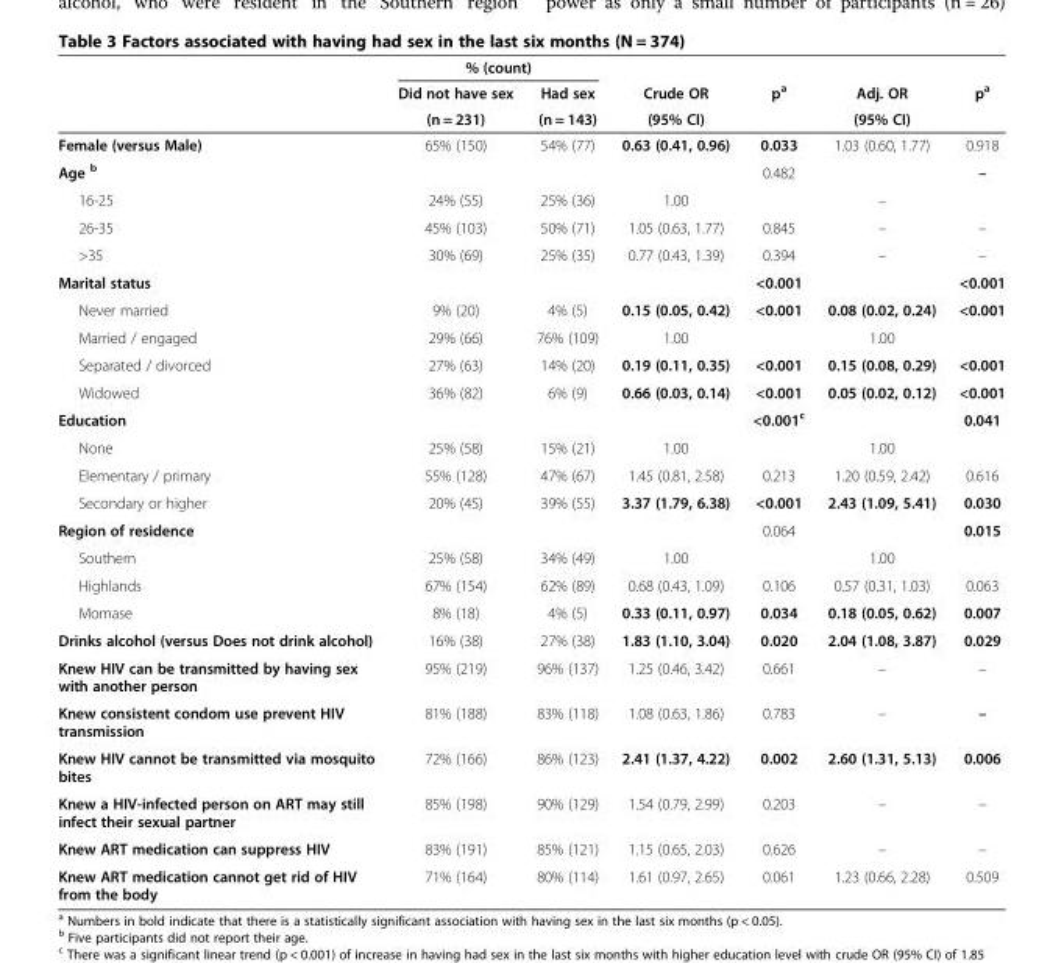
<table><thead><tr><td rowspan="3"></td><td colspan="2">% (count)</td><td rowspan="3">Crude OR (95% CI)</td><td rowspan="3">p<sup>a</sup></td><td rowspan="3">Adj. OR (95% CI)</td><td rowspan="3">p<sup>a</sup></td></tr><tr><td rowspan="2">Did not have sex (n = 231)</td><td rowspan="2">Had sex (n = 143)</td></tr><tr></tr></thead><tbody><tr><td>Female (versus Male)</td><td>65% (150)</td><td>54% (77)</td><td>0.63 (0.41, 0.96)</td><td>0.033</td><td>1.03 (0.60, 1.77)</td><td>0.918</td></tr><tr><td>Age <sup>b</sup></td><td></td><td></td><td></td><td>0.482</td><td></td><td>–</td></tr><tr><td>16-25</td><td>24% (55)</td><td>25% (36)</td><td>1.00</td><td></td><td>–</td><td></td></tr><tr><td>26-35</td><td>45% (103)</td><td>50% (71)</td><td>1.05 (0.63, 1.77)</td><td>0.845</td><td>–</td><td>–</td></tr><tr><td>&gt;35</td><td>30% (69)</td><td>25% (35)</td><td>0.77 (0.43, 1.39)</td><td>0.394</td><td>–</td><td>–</td></tr><tr><td>Marital status</td><td></td><td></td><td></td><td>&lt;0.001</td><td></td><td>&lt;0.001</td></tr><tr><td>Never married</td><td>9% (20)</td><td>4% (5)</td><td>0.15 (0.05, 0.42)</td><td>&lt;0.001</td><td>0.08 (0.02, 0.24)</td><td>&lt;0.001</td></tr><tr><td>Married / engaged</td><td>29% (66)</td><td>76% (109)</td><td>1.00</td><td></td><td>1.00</td><td></td></tr><tr><td>Separated / divorced</td><td>27% (63)</td><td>14% (20)</td><td>0.19 (0.11, 0.35)</td><td>&lt;0.001</td><td>0.15 (0.08, 0.29)</td><td>&lt;0.001</td></tr><tr><td>Widowed</td><td>36% (82)</td><td>6% (9)</td><td>0.66 (0.03, 0.14)</td><td>&lt;0.001</td><td>0.05 (0.02, 0.12)</td><td>&lt;0.001</td></tr><tr><td>Education</td><td></td><td></td><td></td><td>&lt;0.001<sup>c</sup></td><td></td><td>0.041</td></tr><tr><td>None</td><td>25% (58)</td><td>15% (21)</td><td>1.00</td><td></td><td>1.00</td><td></td></tr><tr><td>Elementary / primary</td><td>55% (128)</td><td>47% (67)</td><td>1.45 (0.81, 2.58)</td><td>0.213</td><td>1.20 (0.59, 2.42)</td><td>0.616</td></tr><tr><td>Secondary or higher</td><td>20% (45)</td><td>39% (55)</td><td>3.37 (1.79, 6.38)</td><td>&lt;0.001</td><td>2.43 (1.09, 5.41)</td><td>0.030</td></tr><tr><td>Region of residence</td><td></td><td></td><td></td><td>0.064</td><td></td><td>0.015</td></tr><tr><td>Southern</td><td>25% (58)</td><td>34% (49)</td><td>1.00</td><td></td><td>1.00</td><td></td></tr><tr><td>Highlands</td><td>67% (154)</td><td>62% (89)</td><td>0.68 (0.43, 1.09)</td><td>0.106</td><td>0.57 (0.31, 1.03)</td><td>0.063</td></tr><tr><td>Momase</td><td>8% (18)</td><td>4% (5)</td><td>0.33 (0.11, 0.97)</td><td>0.034</td><td>0.18 (0.05, 0.62)</td><td>0.007</td></tr><tr><td>Drinks alcohol (versus Does not drink alcohol)</td><td>16% (38)</td><td>27% (38)</td><td>1.83 (1.10, 3.04)</td><td>0.020</td><td>2.04 (1.08, 3.87)</td><td>0.029</td></tr><tr><td>Knew HIV can be transmitted by having sex with another person</td><td>95% (219)</td><td>96% (137)</td><td>1.25 (0.46, 3.42)</td><td>0.661</td><td>–</td><td>–</td></tr><tr><td>Knew consistent condom use prevent HIV transmission</td><td>81% (188)</td><td>83% (118)</td><td>1.08 (0.63, 1.86)</td><td>0.783</td><td>–</td><td>–</td></tr><tr><td>Knew HIV cannot be transmitted via mosquito bites</td><td>72% (166)</td><td>86% (123)</td><td>2.41 (1.37, 4.22)</td><td>0.002</td><td>2.60 (1.31, 5.13)</td><td>0.006</td></tr><tr><td>Knew a HIV-infected person on ART may still infect their sexual partner</td><td>85% (198)</td><td>90% (129)</td><td>1.54 (0.79, 2.99)</td><td>0.203</td><td>–</td><td>–</td></tr><tr><td>Knew ART medication can suppress HIV</td><td>83% (191)</td><td>85% (121)</td><td>1.15 (0.65, 2.03)</td><td>0.626</td><td>–</td><td>–</td></tr><tr><td>Knew ART medication cannot get rid of HIV from the body</td><td>71% (164)</td><td>80% (114)</td><td>1.61 (0.97, 2.65)</td><td>0.061</td><td>1.23 (0.66, 2.28)</td><td>0.509</td></tr></tbody></table>